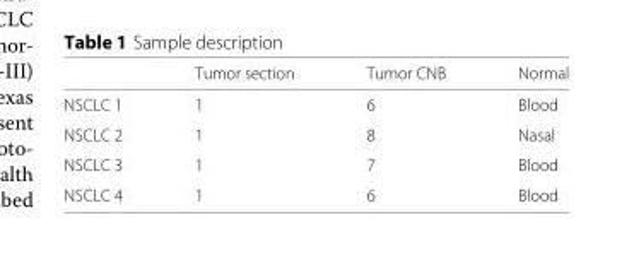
<table><thead><tr><td></td><td>Tumor section</td><td>Tumor CNB</td><td>Normal</td></tr></thead><tbody><tr><td>NSCLC 1</td><td>1</td><td>6</td><td>Blood</td></tr><tr><td>NSCLC 2</td><td>1</td><td>8</td><td>Nasal</td></tr><tr><td>NSCLC 3</td><td>1</td><td>7</td><td>Blood</td></tr><tr><td>NSCLC 4</td><td>1</td><td>6</td><td>Blood</td></tr></tbody></table>